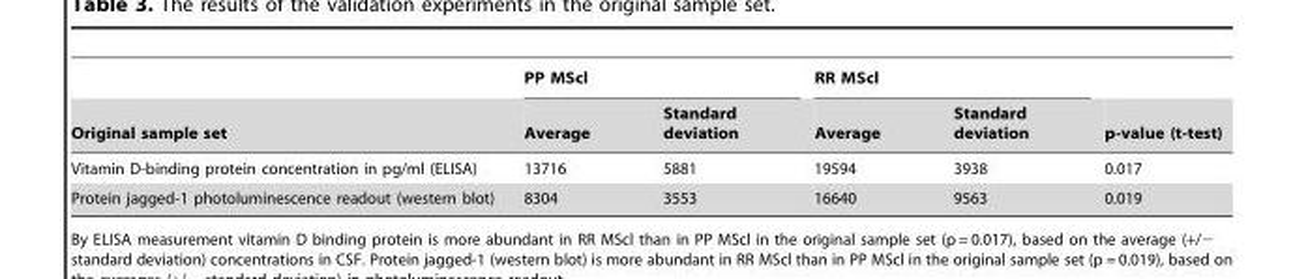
<table><thead><tr><td rowspan="2">Original sample set</td><td colspan="2">PP MScl</td><td colspan="2">RR MScl</td><td rowspan="2">p-value (t-test)</td></tr><tr><td>Average</td><td>Standard deviation</td><td>Average</td><td>Standard deviation</td></tr></thead><tbody><tr><td>Vitamin D-binding protein concentration in pg/ml (ELISA)</td><td>13716</td><td>5881</td><td>19594</td><td>3938</td><td>0.017</td></tr><tr><td>Protein jagged-1 photoluminescence readout (western blot)</td><td>8304</td><td>3553</td><td>16640</td><td>9563</td><td>0.019</td></tr></tbody></table>